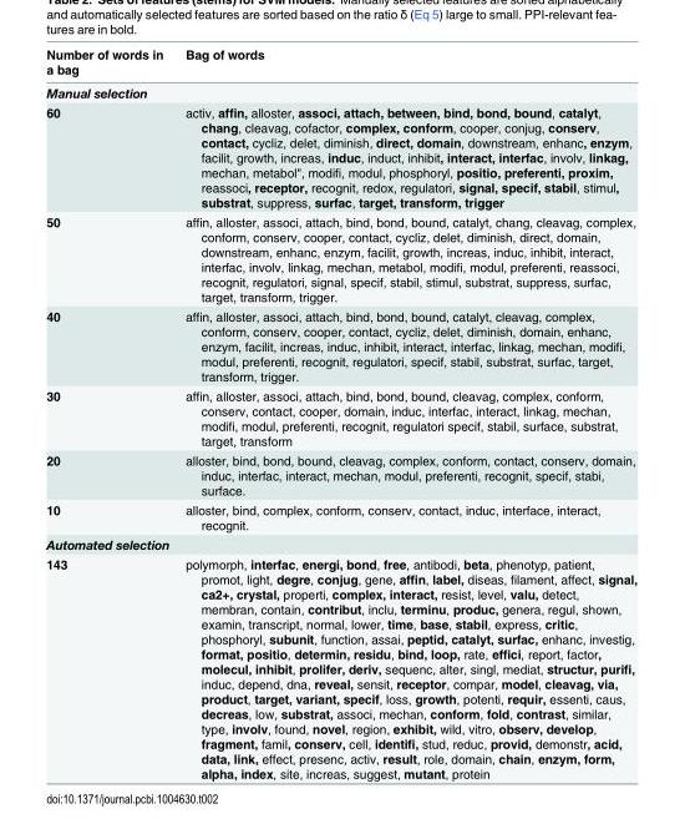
<table><thead><tr><td>Number of words in a bag</td><td>Bag of words</td></tr></thead><tbody><tr><td colspan="2">Manual selection</td></tr><tr><td>60</td><td>activ, affin, alloster, associ, attach, between, bind, bond, bound, catalyt, chang, cleavag, cofactor, complex, conform, cooper, conjug, conserv, contact, cycliz, delet, diminish, direct, domain, downstream, enhanc, enzym, facilit, growth, increas, induc, induct, inhibit, interact, interfac, involv, linkag, mechan, metabol&quot;, modifi, modul, phosphoryl, positio, preferenti, proxim, reassoci, receptor, recognit, redox, regulatori, signal, specif, stabil, stimul, substrat, suppress, surfac, target, transform, trigger</td></tr><tr><td>50</td><td>affin, alloster, associ, attach, bind, bond, bound, catalyt, chang, cleavag, complex, conform, conserv, cooper, contact, cycliz, delet, diminish, direct, domain, downstream, enhanc, enzym, facilit, growth, increas, induc, inhibit, interact, interfac, involv, linkag, mechan, metabol, modifi, modul, preferenti, reassoci, recognit, regulatori, signal, specif, stabil, stimul, substrat, suppress, surfac, target, transform, trigger.</td></tr><tr><td>40</td><td>affin, alloster, associ, attach, bind, bond, bound, catalyt, cleavag, complex, conform, conserv, cooper, contact, cycliz, delet, diminish, domain, enhanc, enzym, facilit, increas, induc, inhibit, interact, interfac, linkag, mechan, modifi, modul, preferenti, recognit, regulatori, specif, stabil, substrat, surfac, target, transform, trigger.</td></tr><tr><td>30</td><td>affin, alloster, associ, attach, bind, bond, bound, cleavag, complex, conform, conserv, contact, cooper, domain, induc, interfac, interact, linkag, mechan, modifi, modul, preferenti, recognit, regulatori specif, stabil, surface, substrat, target, transform</td></tr><tr><td>20</td><td>alloster, bind, bond, bound, cleavag, complex, conform, contact, conserv, domain, induc, interfac, interact, mechan, modul, preferenti, recognit, specif, stabi, surface.</td></tr><tr><td>10</td><td>alloster, bind, complex, conform, conserv, contact, induc, interface, interact, recognit.</td></tr><tr><td colspan="2">Automated selection</td></tr><tr><td>143</td><td>polymorph, interfac, energi, bond, free, antibodi, beta, phenotyp, patient, promot, light, degre, conjug, gene, affin, label, diseas, filament, affect, signal, ca2+, crystal, properti, complex, interact, resist, level, valu, detect, membran, contain, contribut, inclu, terminu, produc, genera, regul, shown, examin, transcript, normal, lower, time, base, stabil, express, critic, phosphoryl, subunit, function, assai, peptid, catalyt, surfac, enhanc, investig, format, positio, determin, residu, bind, loop, rate, effici, report, factor, molecul, inhibit, prolifer, deriv, sequenc, alter, singl, mediat, structur, purifi, induc, depend, dna, reveal, sensit, receptor, compar, model, cleavag, via, product, target, variant, specif, loss, growth, potenti, requir, essenti, caus, decreas, low, substrat, associ, mechan, conform, fold, contrast, similar, type, involv, found, novel, region, exhibit, wild, vitro, observ, develop, fragment, famil, conserv, cell, identifi, stud, reduc, provid, demonstr, acid, data, link, effect, presenc, activ, result, role, domain, chain, enzym, form, alpha, index, site, increas, suggest, mutant, protein</td></tr></tbody></table>